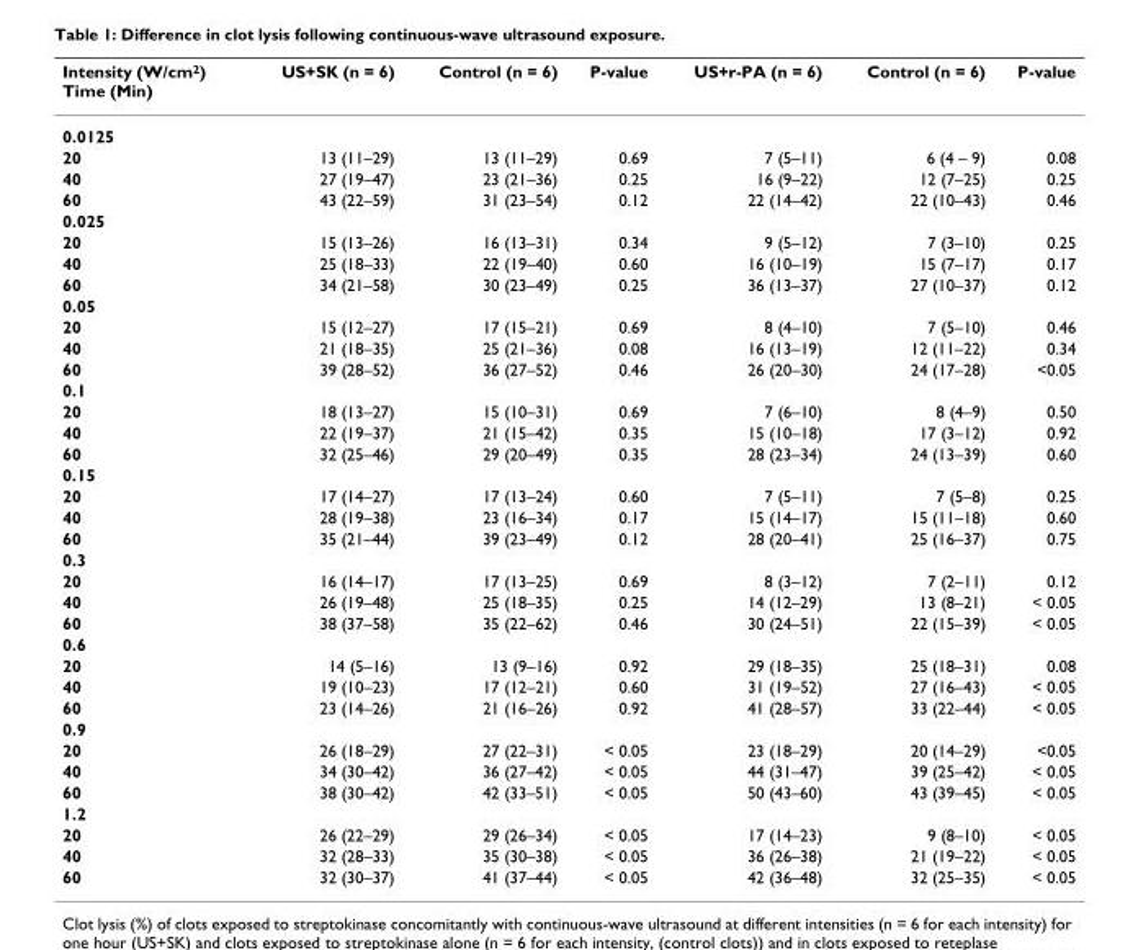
<table><thead><tr><td>Intensity (W/cm<sup>2</sup>) Time (Min)</td><td>US+SK (n = 6)</td><td>Control (n = 6)</td><td>P-value</td><td>US+r-PA (n = 6)</td><td>Control (n = 6)</td><td>P-value</td></tr></thead><tbody><tr><td colspan="7">0.0125</td></tr><tr><td>20</td><td>13 (11–29)</td><td>13 (11–29)</td><td>0.69</td><td>7 (5–11)</td><td>6 (4 – 9)</td><td>0.08</td></tr><tr><td>40</td><td>27 (19–47)</td><td>23 (21–36)</td><td>0.25</td><td>16 (9–22)</td><td>12 (7–25)</td><td>0.25</td></tr><tr><td>60</td><td>43 (22–59)</td><td>31 (23–54)</td><td>0.12</td><td>22 (14–42)</td><td>22 (10–43)</td><td>0.46</td></tr><tr><td colspan="7">0.025</td></tr><tr><td>20</td><td>15 (13–26)</td><td>16 (13–31)</td><td>0.34</td><td>9 (5–12)</td><td>7 (3–10)</td><td>0.25</td></tr><tr><td>40</td><td>25 (18–33)</td><td>22 (19–40)</td><td>0.60</td><td>16 (10–19)</td><td>15 (7–17)</td><td>0.17</td></tr><tr><td>60</td><td>34 (21–58)</td><td>30 (23–49)</td><td>0.25</td><td>36 (13–37)</td><td>27 (10–37)</td><td>0.12</td></tr><tr><td colspan="7">0.05</td></tr><tr><td>20</td><td>15 (12–27)</td><td>17 (15–21)</td><td>0.69</td><td>8 (4–10)</td><td>7 (5–10)</td><td>0.46</td></tr><tr><td>40</td><td>21 (18–35)</td><td>25 (21–36)</td><td>0.08</td><td>16 (13–19)</td><td>12 (11–22)</td><td>0.34</td></tr><tr><td>60</td><td>39 (28–52)</td><td>36 (27–52)</td><td>0.46</td><td>26 (20–30)</td><td>24 (17–28)</td><td>&lt;0.05</td></tr><tr><td colspan="7">0.1</td></tr><tr><td>20</td><td>18 (13–27)</td><td>15 (10–31)</td><td>0.69</td><td>7 (6–10)</td><td>8 (4–9)</td><td>0.50</td></tr><tr><td>40</td><td>22 (19–37)</td><td>21 (15–42)</td><td>0.35</td><td>15 (10–18)</td><td>17 (3–12)</td><td>0.92</td></tr><tr><td>60</td><td>32 (25–46)</td><td>29 (20–49)</td><td>0.35</td><td>28 (23–34)</td><td>24 (13–39)</td><td>0.60</td></tr><tr><td colspan="7">0.15</td></tr><tr><td>20</td><td>17 (14–27)</td><td>17 (13–24)</td><td>0.60</td><td>7 (5–11)</td><td>7 (5–8)</td><td>0.25</td></tr><tr><td>40</td><td>28 (19–38)</td><td>23 (16–34)</td><td>0.17</td><td>15 (14–17)</td><td>15 (11–18)</td><td>0.60</td></tr><tr><td>60</td><td>35 (21–44)</td><td>39 (23–49)</td><td>0.12</td><td>28 (20–41)</td><td>25 (16–37)</td><td>0.75</td></tr><tr><td colspan="7">0.3</td></tr><tr><td>20</td><td>16 (14–17)</td><td>17 (13–25)</td><td>0.69</td><td>8 (3–12)</td><td>7 (2–11)</td><td>0.12</td></tr><tr><td>40</td><td>26 (19–48)</td><td>25 (18–35)</td><td>0.25</td><td>14 (12–29)</td><td>13 (8–21)</td><td>&lt; 0.05</td></tr><tr><td>60</td><td>38 (37–58)</td><td>35 (22–62)</td><td>0.46</td><td>30 (24–51)</td><td>22 (15–39)</td><td>&lt; 0.05</td></tr><tr><td colspan="7">0.6</td></tr><tr><td>20</td><td>14 (5–16)</td><td>13 (9–16)</td><td>0.92</td><td>29 (18–35)</td><td>25 (18–31)</td><td>0.08</td></tr><tr><td>40</td><td>19 (10–23)</td><td>17 (12–21)</td><td>0.60</td><td>31 (19–52)</td><td>27 (16–43)</td><td>&lt; 0.05</td></tr><tr><td>60</td><td>23 (14–26)</td><td>21 (16–26)</td><td>0.92</td><td>41 (28–57)</td><td>33 (22–44)</td><td>&lt; 0.05</td></tr><tr><td colspan="7">0.9</td></tr><tr><td>20</td><td>26 (18–29)</td><td>27 (22–31)</td><td>&lt; 0.05</td><td>23 (18–29)</td><td>20 (14–29)</td><td>&lt;0.05</td></tr><tr><td>40</td><td>34 (30–42)</td><td>36 (27–42)</td><td>&lt; 0.05</td><td>44 (31–47)</td><td>39 (25–42)</td><td>&lt; 0.05</td></tr><tr><td>60</td><td>38 (30–42)</td><td>42 (33–51)</td><td>&lt; 0.05</td><td>50 (43–60)</td><td>43 (39–45)</td><td>&lt; 0.05</td></tr><tr><td colspan="7">1.2</td></tr><tr><td>20</td><td>26 (22–29)</td><td>29 (26–34)</td><td>&lt; 0.05</td><td>17 (14–23)</td><td>9 (8–10)</td><td>&lt; 0.05</td></tr><tr><td>40</td><td>32 (28–33)</td><td>35 (30–38)</td><td>&lt; 0.05</td><td>36 (26–38)</td><td>21 (19–22)</td><td>&lt; 0.05</td></tr><tr><td>60</td><td>32 (30–37)</td><td>41 (37–44)</td><td>&lt; 0.05</td><td>42 (36–48)</td><td>32 (25–35)</td><td>&lt; 0.05</td></tr></tbody></table>